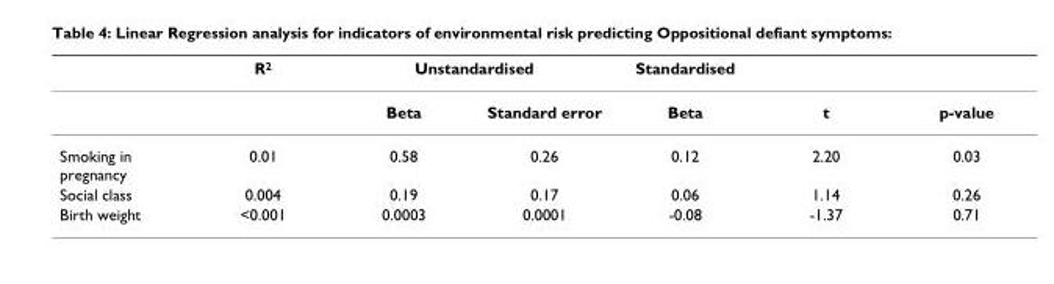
<table><thead><tr><td rowspan="2"></td><td rowspan="2">R2</td><td colspan="2">Unstandardised</td><td rowspan="2">Standardised Beta</td><td rowspan="2">t</td><td rowspan="2">p-value</td></tr><tr><td>Beta</td><td>Standard error</td></tr></thead><tbody><tr><td>Smoking in pregnancy</td><td>0.01</td><td>0.58</td><td>0.26</td><td>0.12</td><td>2.20</td><td>0.03</td></tr><tr><td>Social class</td><td>0.004</td><td>0.19</td><td>0.17</td><td>0.06</td><td>1.14</td><td>0.26</td></tr><tr><td>Birth weight</td><td>&lt;0.001</td><td>0.0003</td><td>0.0001</td><td>-0.08</td><td>-1.37</td><td>0.71</td></tr></tbody></table>